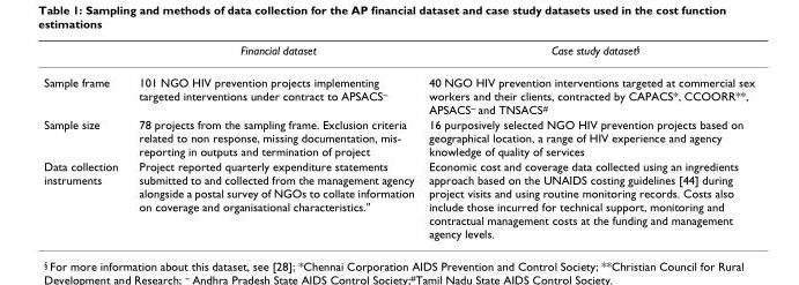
<table><thead><tr><td></td><td>Financial dataset</td><td>Case study dataset<sup>§</sup></td></tr></thead><tbody><tr><td>Sample frame</td><td>101 NGO HIV prevention projects implementing targeted interventions under contract to APSACS<sup>~</sup></td><td>40 NGO HIV prevention interventions targeted at commercial sex workers and their clients, contracted by CAPACS*, CCOORR**, APSACS<sup>~</sup> and TNSACS<sup>#</sup></td></tr><tr><td>Sample size</td><td>78 projects from the sampling frame. Exclusion criteria related to non response, missing documentation, mis- reporting in outputs and termination of project</td><td>16 purposively selected NGO HIV prevention projects based on geographical location, a range of HIV experience and agency knowledge of quality of services</td></tr><tr><td>Data collection instruments</td><td>Project reported quarterly expenditure statements submitted to and collected from the management agency alongside a postal survey of NGOs to collate information on coverage and organisational characteristics.&quot;</td><td>Economic cost and coverage data collected using an ingredients approach based on the UNAIDS costing guidelines [44] during project visits and using routine monitoring records. Costs also include those incurred for technical support, monitoring and contractual management costs at the funding and management agency levels.</td></tr></tbody></table>